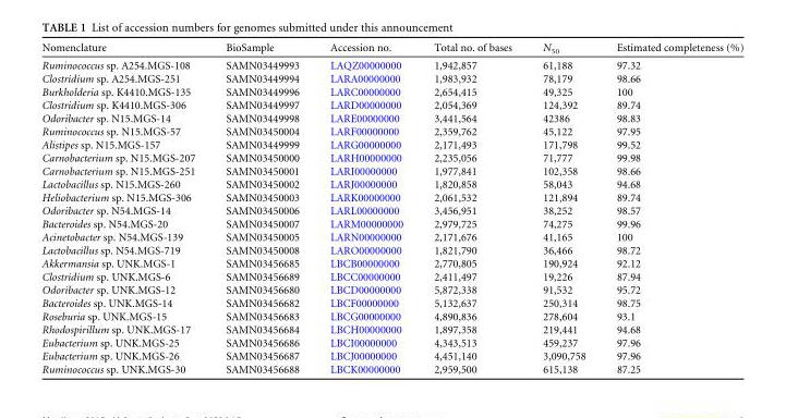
<table><thead><tr><td>Nomenclature</td><td>BioSample</td><td>Accession no.</td><td>Total no. of bases</td><td>N<sub>50</sub></td><td>Estimated completeness (%)</td></tr></thead><tbody><tr><td>Ruminococcus sp. A254.MGS-108</td><td>SAMN03449993</td><td>LAQZ00000000</td><td>1,942,857</td><td>61,188</td><td>97.32</td></tr><tr><td>Clostridium sp. A254.MGS-251</td><td>SAMN03449994</td><td>LARA00000000</td><td>1,983,932</td><td>78,179</td><td>98.66</td></tr><tr><td>Burkholderia sp. K4410.MGS-135</td><td>SAMN03449996</td><td>LARC00000000</td><td>2,654,415</td><td>49,325</td><td>100</td></tr><tr><td>Clostridium sp. K4410.MGS-306</td><td>SAMN03449997</td><td>LARD00000000</td><td>2,054,369</td><td>124,392</td><td>89.74</td></tr><tr><td>Odoribacter sp. N15.MGS-14</td><td>SAMN03449998</td><td>LARE00000000</td><td>3,441,564</td><td>42386</td><td>98.83</td></tr><tr><td>Ruminococcus sp. N15.MGS-57</td><td>SAMN03450004</td><td>LARF00000000</td><td>2,359,762</td><td>45,122</td><td>97.95</td></tr><tr><td>Alistipes sp. N15.MGS-157</td><td>SAMN03449999</td><td>LARG00000000</td><td>2,171,493</td><td>171,798</td><td>99.52</td></tr><tr><td>Carnobacterium sp. N15.MGS-207</td><td>SAMN03450000</td><td>LARH00000000</td><td>2,235,056</td><td>71,777</td><td>99.98</td></tr><tr><td>Carnobacterium sp. N15.MGS-251</td><td>SAMN03450001</td><td>LARI00000000</td><td>1,977,841</td><td>102,358</td><td>98.66</td></tr><tr><td>Lactobacillus sp. N15.MGS-260</td><td>SAMN03450002</td><td>LARJ00000000</td><td>1,820,858</td><td>58,043</td><td>94.68</td></tr><tr><td>Heliobacterium sp. N15.MGS-306</td><td>SAMN03450003</td><td>LARK00000000</td><td>2,061,532</td><td>121,894</td><td>89.74</td></tr><tr><td>Odoribacter sp. N54.MGS-14</td><td>SAMN03450006</td><td>LARL00000000</td><td>3,456,951</td><td>38,252</td><td>98.57</td></tr><tr><td>Bacteroides sp. N54.MGS-20</td><td>SAMN03450007</td><td>LARM00000000</td><td>2,979,725</td><td>74,275</td><td>99.96</td></tr><tr><td>Acinetobacter sp. N54.MGS-139</td><td>SAMN03450005</td><td>LARN00000000</td><td>2,171,676</td><td>41,165</td><td>100</td></tr><tr><td>Lactobacillus sp. N54.MGS-719</td><td>SAMN03450008</td><td>LARO00000000</td><td>1,821,790</td><td>36,466</td><td>98.72</td></tr><tr><td>Akkermansia sp. UNK.MGS-1</td><td>SAMN03456685</td><td>LBCB00000000</td><td>2,770,805</td><td>190,924</td><td>92.12</td></tr><tr><td>Clostridium sp. UNK.MGS-6</td><td>SAMN03456689</td><td>LBCC00000000</td><td>2,411,497</td><td>19,226</td><td>87.94</td></tr><tr><td>Odoribacter sp. UNK.MGS-12</td><td>SAMN03456680</td><td>LBCD00000000</td><td>5,872,338</td><td>91,532</td><td>95.72</td></tr><tr><td>Bacteroides sp. UNK.MGS-14</td><td>SAMN03456682</td><td>LBCF00000000</td><td>5,132,637</td><td>250,314</td><td>98.75</td></tr><tr><td>Roseburia sp. UNK.MGS-15</td><td>SAMN03456683</td><td>LBCG00000000</td><td>4,890,836</td><td>278,604</td><td>93.1</td></tr><tr><td>Rhodospirillum sp. UNK.MGS-17</td><td>SAMN03456684</td><td>LBCH00000000</td><td>1,897,358</td><td>219,441</td><td>94.68</td></tr><tr><td>Eubacterium sp. UNK.MGS-25</td><td>SAMN03456686</td><td>LBCI00000000</td><td>4,343,513</td><td>459,237</td><td>97.96</td></tr><tr><td>Eubacterium sp. UNK.MGS-26</td><td>SAMN03456687</td><td>LBCJ00000000</td><td>4,451,140</td><td>3,090,758</td><td>97.96</td></tr><tr><td>Ruminococcus sp. UNK.MGS-30</td><td>SAMN03456688</td><td>LBCK00000000</td><td>2,959,500</td><td>615,138</td><td>87.25</td></tr></tbody></table>